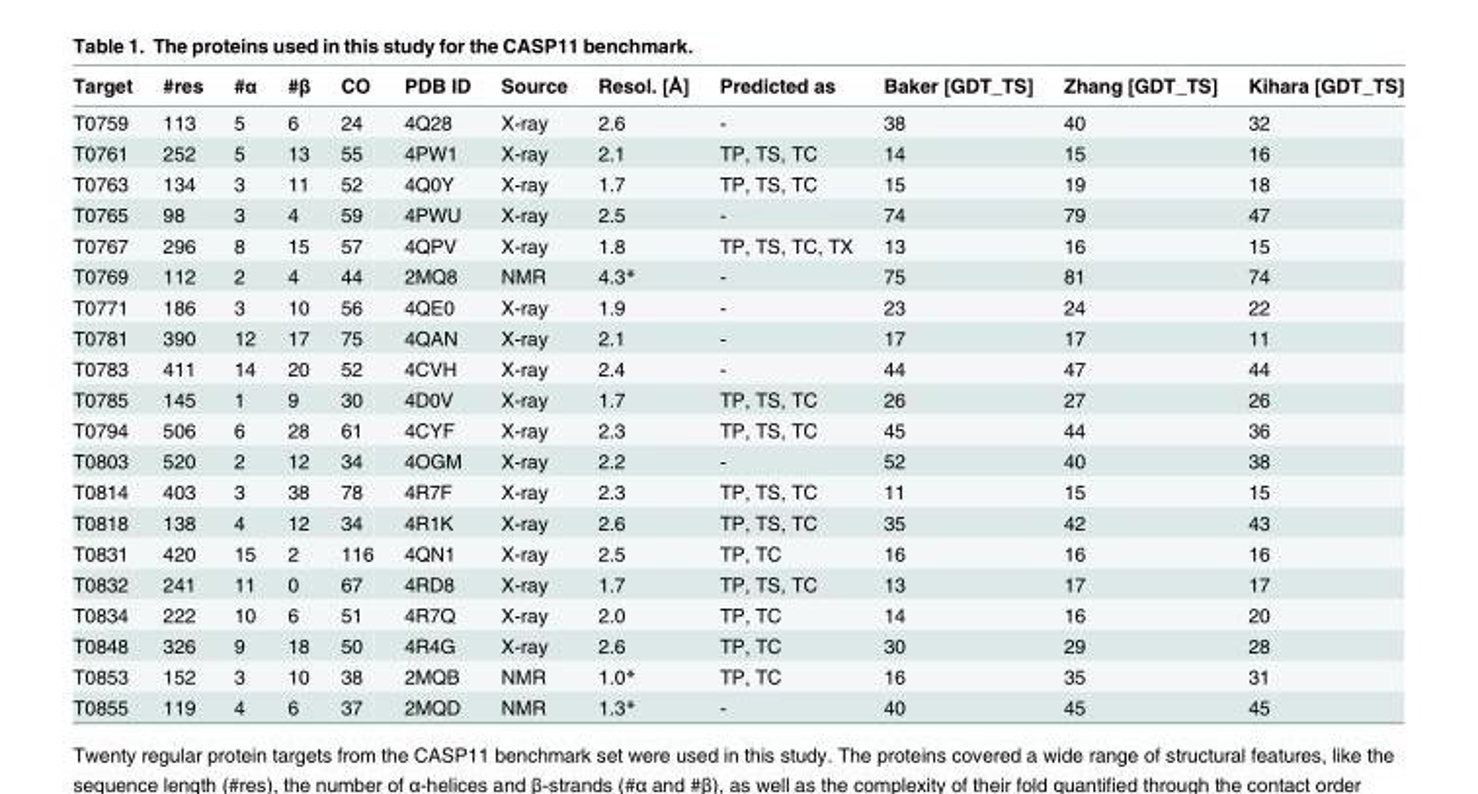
<table><thead><tr><td>Target</td><td>#res</td><td>#α</td><td>#β</td><td>CO</td><td>PDB ID</td><td>Source</td><td>Resol. [Å]</td><td>Predicted as</td><td>Baker [GDT_TS]</td><td>Zhang [GDT_TS]</td><td>Kihara [GDT_TS]</td></tr></thead><tbody><tr><td>T0759</td><td>113</td><td>5</td><td>6</td><td>24</td><td>4Q28</td><td>X-ray</td><td>2.6</td><td>-</td><td>38</td><td>40</td><td>32</td></tr><tr><td>T0761</td><td>252</td><td>5</td><td>13</td><td>55</td><td>4PW1</td><td>X-ray</td><td>2.1</td><td>TP, TS, TC</td><td>14</td><td>15</td><td>16</td></tr><tr><td>T0763</td><td>134</td><td>3</td><td>11</td><td>52</td><td>4Q0Y</td><td>X-ray</td><td>1.7</td><td>TP, TS, TC</td><td>15</td><td>19</td><td>18</td></tr><tr><td>T0765</td><td>98</td><td>3</td><td>4</td><td>59</td><td>4PWU</td><td>X-ray</td><td>2.5</td><td>-</td><td>74</td><td>79</td><td>47</td></tr><tr><td>T0767</td><td>296</td><td>8</td><td>15</td><td>57</td><td>4QPV</td><td>X-ray</td><td>1.8</td><td>TP, TS, TC, TX</td><td>13</td><td>16</td><td>15</td></tr><tr><td>T0769</td><td>112</td><td>2</td><td>4</td><td>44</td><td>2MQ8</td><td>NMR</td><td>4.3*</td><td>-</td><td>75</td><td>81</td><td>74</td></tr><tr><td>T0771</td><td>186</td><td>3</td><td>10</td><td>56</td><td>4QE0</td><td>X-ray</td><td>1.9</td><td>-</td><td>23</td><td>24</td><td>22</td></tr><tr><td>T0781</td><td>390</td><td>12</td><td>17</td><td>75</td><td>4QAN</td><td>X-ray</td><td>2.1</td><td>-</td><td>17</td><td>17</td><td>11</td></tr><tr><td>T0783</td><td>411</td><td>14</td><td>20</td><td>52</td><td>4CVH</td><td>X-ray</td><td>2.4</td><td>-</td><td>44</td><td>47</td><td>44</td></tr><tr><td>T0785</td><td>145</td><td>1</td><td>9</td><td>30</td><td>4D0V</td><td>X-ray</td><td>1.7</td><td>TP, TS, TC</td><td>26</td><td>27</td><td>26</td></tr><tr><td>T0794</td><td>506</td><td>6</td><td>28</td><td>61</td><td>4CYF</td><td>X-ray</td><td>2.3</td><td>TP, TS, TC</td><td>45</td><td>44</td><td>36</td></tr><tr><td>T0803</td><td>520</td><td>2</td><td>12</td><td>34</td><td>4OGM</td><td>X-ray</td><td>2.2</td><td>-</td><td>52</td><td>40</td><td>38</td></tr><tr><td>T0814</td><td>403</td><td>3</td><td>38</td><td>78</td><td>4R7F</td><td>X-ray</td><td>2.3</td><td>TP, TS, TC</td><td>11</td><td>15</td><td>15</td></tr><tr><td>T0818</td><td>138</td><td>4</td><td>12</td><td>34</td><td>4R1K</td><td>X-ray</td><td>2.6</td><td>TP, TS, TC</td><td>35</td><td>42</td><td>43</td></tr><tr><td>T0831</td><td>420</td><td>15</td><td>2</td><td>116</td><td>4QN1</td><td>X-ray</td><td>2.5</td><td>TP, TC</td><td>16</td><td>16</td><td>16</td></tr><tr><td>T0832</td><td>241</td><td>11</td><td>0</td><td>67</td><td>4RD8</td><td>X-ray</td><td>1.7</td><td>TP, TS, TC</td><td>13</td><td>17</td><td>17</td></tr><tr><td>T0834</td><td>222</td><td>10</td><td>6</td><td>51</td><td>4R7Q</td><td>X-ray</td><td>2.0</td><td>TP, TC</td><td>14</td><td>16</td><td>20</td></tr><tr><td>T0848</td><td>326</td><td>9</td><td>18</td><td>50</td><td>4R4G</td><td>X-ray</td><td>2.6</td><td>TP, TC</td><td>30</td><td>29</td><td>28</td></tr><tr><td>T0853</td><td>152</td><td>3</td><td>10</td><td>38</td><td>2MQB</td><td>NMR</td><td>1.0*</td><td>TP, TC</td><td>16</td><td>35</td><td>31</td></tr><tr><td>T0855</td><td>119</td><td>4</td><td>6</td><td>37</td><td>2MQD</td><td>NMR</td><td>1.3*</td><td>-</td><td>40</td><td>45</td><td>45</td></tr></tbody></table>